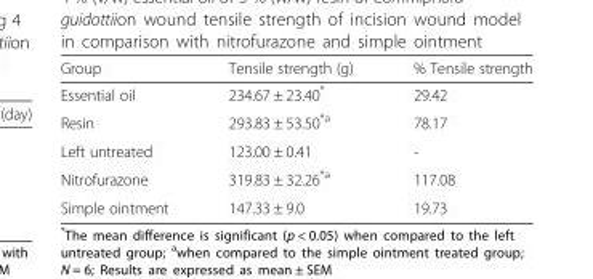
<table><thead><tr><td>Group</td><td>Tensile strength (g)</td><td>% Tensile strength</td></tr></thead><tbody><tr><td>Essential oil</td><td>234.67 ± 23.40*</td><td>29.42</td></tr><tr><td>Resin</td><td>293.83 ± 53.50<sup>*a</sup></td><td>78.17</td></tr><tr><td>Left untreated</td><td>123.00 ± 0.41</td><td>-</td></tr><tr><td>Nitrofurazone</td><td>319.83 ± 32.26<sup>*a</sup></td><td>117.08</td></tr><tr><td>Simple ointment</td><td>147.33 ± 9.0</td><td>19.73</td></tr></tbody></table>